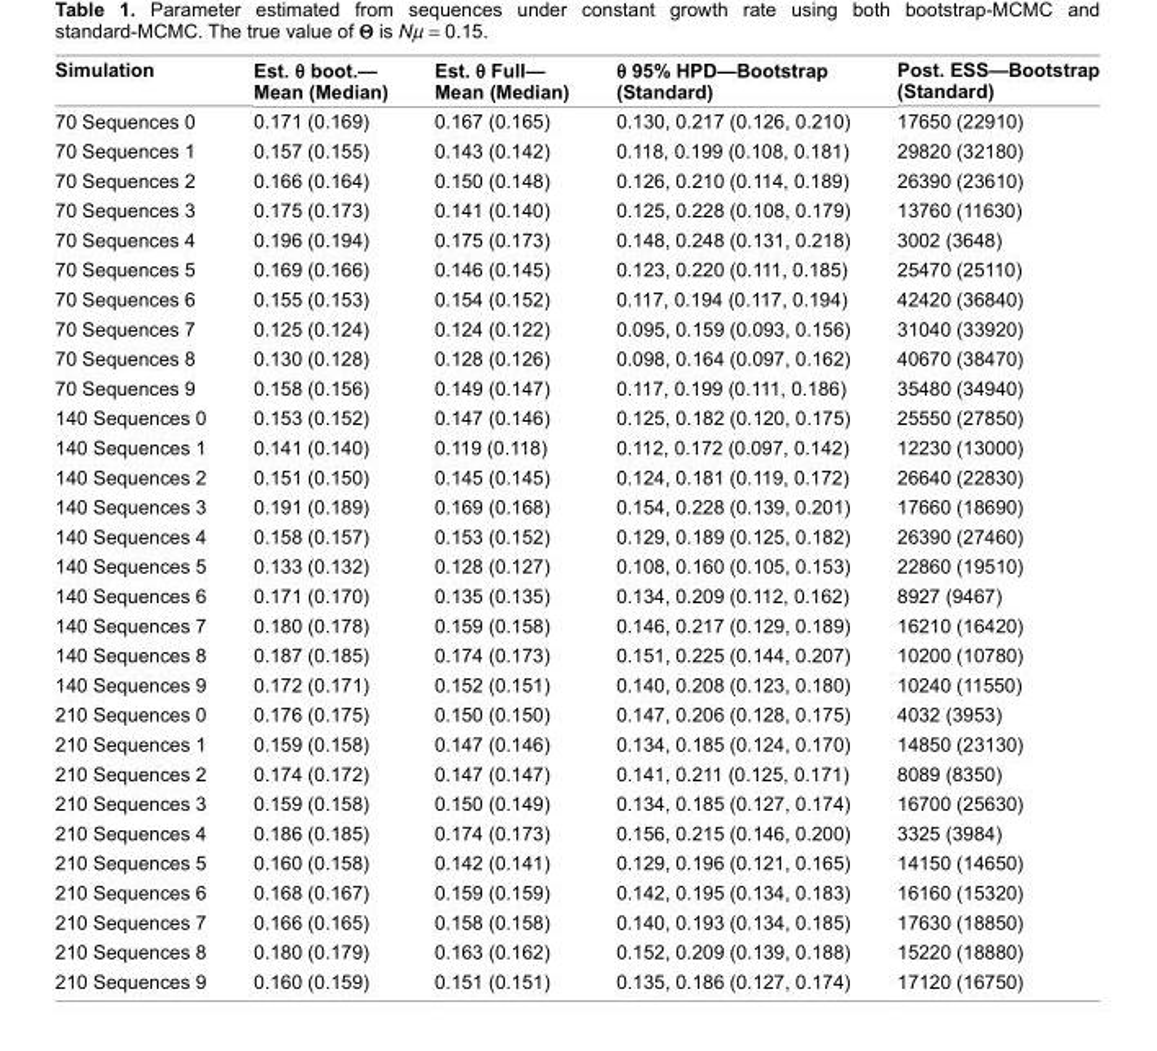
<table><thead><tr><td>simulation</td><td>est. θ boot.— Mean (Median)</td><td>est. θ Full— Mean (Median)</td><td>θ 95% HpD—Bootstrap (standard)</td><td>post. ess—Bootstrap (standard)</td></tr></thead><tbody><tr><td>70 sequences 0</td><td>0.171 (0.169)</td><td>0.167 (0.165)</td><td>0.130, 0.217 (0.126, 0.210)</td><td>17650 (22910)</td></tr><tr><td>70 sequences 1</td><td>0.157 (0.155)</td><td>0.143 (0.142)</td><td>0.118, 0.199 (0.108, 0.181)</td><td>29820 (32180)</td></tr><tr><td>70 sequences 2</td><td>0.166 (0.164)</td><td>0.150 (0.148)</td><td>0.126, 0.210 (0.114, 0.189)</td><td>26390 (23610)</td></tr><tr><td>70 sequences 3</td><td>0.175 (0.173)</td><td>0.141 (0.140)</td><td>0.125, 0.228 (0.108, 0.179)</td><td>13760 (11630)</td></tr><tr><td>70 sequences 4</td><td>0.196 (0.194)</td><td>0.175 (0.173)</td><td>0.148, 0.248 (0.131, 0.218)</td><td>3002 (3648)</td></tr><tr><td>70 sequences 5</td><td>0.169 (0.166)</td><td>0.146 (0.145)</td><td>0.123, 0.220 (0.111, 0.185)</td><td>25470 (25110)</td></tr><tr><td>70 sequences 6</td><td>0.155 (0.153)</td><td>0.154 (0.152)</td><td>0.117, 0.194 (0.117, 0.194)</td><td>42420 (36840)</td></tr><tr><td>70 sequences 7</td><td>0.125 (0.124)</td><td>0.124 (0.122)</td><td>0.095, 0.159 (0.093, 0.156)</td><td>31040 (33920)</td></tr><tr><td>70 sequences 8</td><td>0.130 (0.128)</td><td>0.128 (0.126)</td><td>0.098, 0.164 (0.097, 0.162)</td><td>40670 (38470)</td></tr><tr><td>70 sequences 9</td><td>0.158 (0.156)</td><td>0.149 (0.147)</td><td>0.117, 0.199 (0.111, 0.186)</td><td>35480 (34940)</td></tr><tr><td>140 sequences 0</td><td>0.153 (0.152)</td><td>0.147 (0.146)</td><td>0.125, 0.182 (0.120, 0.175)</td><td>25550 (27850)</td></tr><tr><td>140 sequences 1</td><td>0.141 (0.140)</td><td>0.119 (0.118)</td><td>0.112, 0.172 (0.097, 0.142)</td><td>12230 (13000)</td></tr><tr><td>140 sequences 2</td><td>0.151 (0.150)</td><td>0.145 (0.145)</td><td>0.124, 0.181 (0.119, 0.172)</td><td>26640 (22830)</td></tr><tr><td>140 sequences 3</td><td>0.191 (0.189)</td><td>0.169 (0.168)</td><td>0.154, 0.228 (0.139, 0.201)</td><td>17660 (18690)</td></tr><tr><td>140 sequences 4</td><td>0.158 (0.157)</td><td>0.153 (0.152)</td><td>0.129, 0.189 (0.125, 0.182)</td><td>26390 (27460)</td></tr><tr><td>140 sequences 5</td><td>0.133 (0.132)</td><td>0.128 (0.127)</td><td>0.108, 0.160 (0.105, 0.153)</td><td>22860 (19510)</td></tr><tr><td>140 sequences 6</td><td>0.171 (0.170)</td><td>0.135 (0.135)</td><td>0.134, 0.209 (0.112, 0.162)</td><td>8927 (9467)</td></tr><tr><td>140 sequences 7</td><td>0.180 (0.178)</td><td>0.159 (0.158)</td><td>0.146, 0.217 (0.129, 0.189)</td><td>16210 (16420)</td></tr><tr><td>140 sequences 8</td><td>0.187 (0.185)</td><td>0.174 (0.173)</td><td>0.151, 0.225 (0.144, 0.207)</td><td>10200 (10780)</td></tr><tr><td>140 sequences 9</td><td>0.172 (0.171)</td><td>0.152 (0.151)</td><td>0.140, 0.208 (0.123, 0.180)</td><td>10240 (11550)</td></tr><tr><td>210 sequences 0</td><td>0.176 (0.175)</td><td>0.150 (0.150)</td><td>0.147, 0.206 (0.128, 0.175)</td><td>4032 (3953)</td></tr><tr><td>210 sequences 1</td><td>0.159 (0.158)</td><td>0.147 (0.146)</td><td>0.134, 0.185 (0.124, 0.170)</td><td>14850 (23130)</td></tr><tr><td>210 sequences 2</td><td>0.174 (0.172)</td><td>0.147 (0.147)</td><td>0.141, 0.211 (0.125, 0.171)</td><td>8089 (8350)</td></tr><tr><td>210 sequences 3</td><td>0.159 (0.158)</td><td>0.150 (0.149)</td><td>0.134, 0.185 (0.127, 0.174)</td><td>16700 (25630)</td></tr><tr><td>210 sequences 4</td><td>0.186 (0.185)</td><td>0.174 (0.173)</td><td>0.156, 0.215 (0.146, 0.200)</td><td>3325 (3984)</td></tr><tr><td>210 sequences 5</td><td>0.160 (0.158)</td><td>0.142 (0.141)</td><td>0.129, 0.196 (0.121, 0.165)</td><td>14150 (14650)</td></tr><tr><td>210 sequences 6</td><td>0.168 (0.167)</td><td>0.159 (0.159)</td><td>0.142, 0.195 (0.134, 0.183)</td><td>16160 (15320)</td></tr><tr><td>210 sequences 7</td><td>0.166 (0.165)</td><td>0.158 (0.158)</td><td>0.140, 0.193 (0.134, 0.185)</td><td>17630 (18850)</td></tr><tr><td>210 sequences 8</td><td>0.180 (0.179)</td><td>0.163 (0.162)</td><td>0.152, 0.209 (0.139, 0.188)</td><td>15220 (18880)</td></tr><tr><td>210 sequences 9</td><td>0.160 (0.159)</td><td>0.151 (0.151)</td><td>0.135, 0.186 (0.127, 0.174)</td><td>17120 (16750)</td></tr></tbody></table>